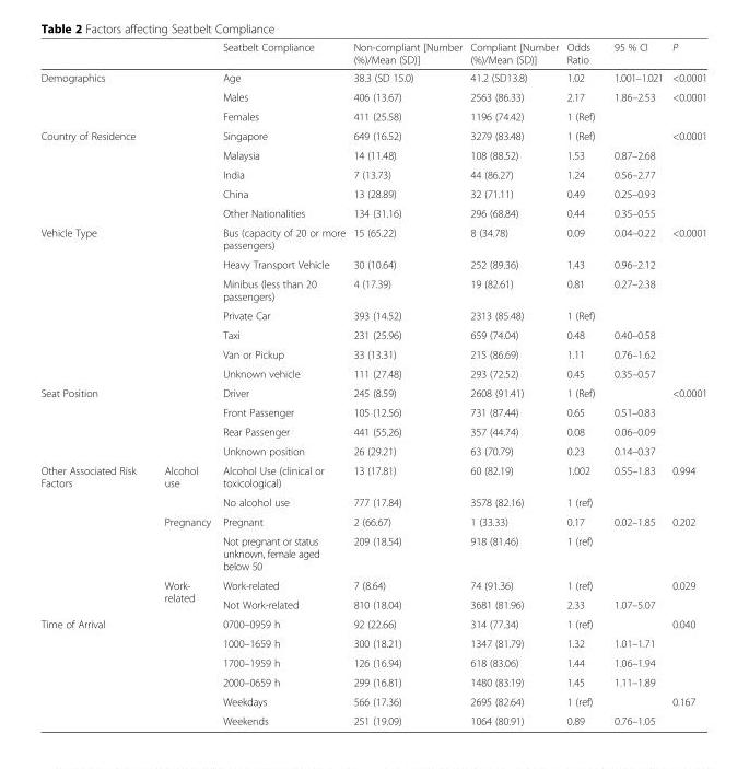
<table><thead><tr><td></td><td></td><td>Seatbelt Compliance</td><td>Non-compliant [Number (%)/Mean (SD)]</td><td>Compliant [Number (%)/Mean (SD)]</td><td>Odds Ratio</td><td>95 % CI</td><td>P</td></tr></thead><tbody><tr><td rowspan="3" colspan="2">Demographics</td><td>Age</td><td>38.3 (SD 15.0)</td><td>41.2 (SD13.8)</td><td>1.02</td><td>1.001–1.021</td><td>&lt;0.0001</td></tr><tr><td>Males</td><td>406 (13.67)</td><td>2563 (86.33)</td><td>2.17</td><td>1.86–2.53</td><td rowspan="2">&lt;0.0001</td></tr><tr><td>Females</td><td>411 (25.58)</td><td>1196 (74.42)</td><td>1 (Ref)</td><td></td></tr><tr><td rowspan="5" colspan="2">Country of Residence</td><td>Singapore</td><td>649 (16.52)</td><td>3279 (83.48)</td><td>1 (Ref)</td><td></td><td rowspan="5">&lt;0.0001</td></tr><tr><td>Malaysia</td><td>14 (11.48)</td><td>108 (88.52)</td><td>1.53</td><td>0.87–2.68</td></tr><tr><td>India</td><td>7 (13.73)</td><td>44 (86.27)</td><td>1.24</td><td>0.56–2.77</td></tr><tr><td>China</td><td>13 (28.89)</td><td>32 (71.11)</td><td>0.49</td><td>0.25–0.93</td></tr><tr><td>Other Nationalities</td><td>134 (31.16)</td><td>296 (68.84)</td><td>0.44</td><td>0.35–0.55</td></tr><tr><td rowspan="7" colspan="2">Vehicle Type</td><td>Bus (capacity of 20 or more passengers)</td><td>15 (65.22)</td><td>8 (34.78)</td><td>0.09</td><td>0.04–0.22</td><td rowspan="7">&lt;0.0001</td></tr><tr><td>Heavy Transport Vehicle</td><td>30 (10.64)</td><td>252 (89.36)</td><td>1.43</td><td>0.96–2.12</td></tr><tr><td>Minibus (less than 20 passengers)</td><td>4 (17.39)</td><td>19 (82.61)</td><td>0.81</td><td>0.27–2.38</td></tr><tr><td>Private Car</td><td>393 (14.52)</td><td>2313 (85.48)</td><td>1 (Ref)</td><td></td></tr><tr><td>Taxi</td><td>231 (25.96)</td><td>659 (74.04)</td><td>0.48</td><td>0.40–0.58</td></tr><tr><td>Van or Pickup</td><td>33 (13.31)</td><td>215 (86.69)</td><td>1.11</td><td>0.76–1.62</td></tr><tr><td>Unknown vehicle</td><td>111 (27.48)</td><td>293 (72.52)</td><td>0.45</td><td>0.35–0.57</td></tr><tr><td rowspan="4" colspan="2">Seat Position</td><td>Driver</td><td>245 (8.59)</td><td>2608 (91.41)</td><td>1 (Ref)</td><td></td><td rowspan="4">&lt;0.0001</td></tr><tr><td>Front Passenger</td><td>105 (12.56)</td><td>731 (87.44)</td><td>0.65</td><td>0.51–0.83</td></tr><tr><td>Rear Passenger</td><td>441 (55.26)</td><td>357 (44.74)</td><td>0.08</td><td>0.06–0.09</td></tr><tr><td>Unknown position</td><td>26 (29.21)</td><td>63 (70.79)</td><td>0.23</td><td>0.14–0.37</td></tr><tr><td rowspan="6">Other Associated Risk Factors</td><td rowspan="2">Alcohol use</td><td>Alcohol Use (clinical or toxicological)</td><td>13 (17.81)</td><td>60 (82.19)</td><td>1.002</td><td>0.55–1.83</td><td rowspan="2">0.994</td></tr><tr><td>No alcohol use</td><td>777 (17.84)</td><td>3578 (82.16)</td><td>1 (ref)</td><td></td></tr><tr><td rowspan="2">Pregnancy</td><td>Pregnant</td><td>2 (66.67)</td><td>1 (33.33)</td><td>0.17</td><td>0.02–1.85</td><td rowspan="2">0.202</td></tr><tr><td>Not pregnant or status unknown, female aged below 50</td><td>209 (18.54)</td><td>918 (81.46)</td><td>1 (ref)</td><td></td></tr><tr><td rowspan="2">Work- related</td><td>Work-related</td><td>7 (8.64)</td><td>74 (91.36)</td><td>1 (ref)</td><td></td><td rowspan="2">0.029</td></tr><tr><td>Not Work-related</td><td>810 (18.04)</td><td>3681 (81.96)</td><td>2.33</td><td>1.07–5.07</td></tr><tr><td rowspan="6" colspan="2">Time of Arrival</td><td>0700–0959 h</td><td>92 (22.66)</td><td>314 (77.34)</td><td>1 (ref)</td><td></td><td rowspan="4">0.040</td></tr><tr><td>1000–1659 h</td><td>300 (18.21)</td><td>1347 (81.79)</td><td>1.32</td><td>1.01–1.71</td></tr><tr><td>1700–1959 h</td><td>126 (16.94)</td><td>618 (83.06)</td><td>1.44</td><td>1.06–1.94</td></tr><tr><td>2000–0659 h</td><td>299 (16.81)</td><td>1480 (83.19)</td><td>1.45</td><td>1.11–1.89</td></tr><tr><td>Weekdays</td><td>566 (17.36)</td><td>2695 (82.64)</td><td>1 (ref)</td><td></td><td rowspan="2">0.167</td></tr><tr><td>Weekends</td><td>251 (19.09)</td><td>1064 (80.91)</td><td>0.89</td><td>0.76–1.05</td></tr></tbody></table>